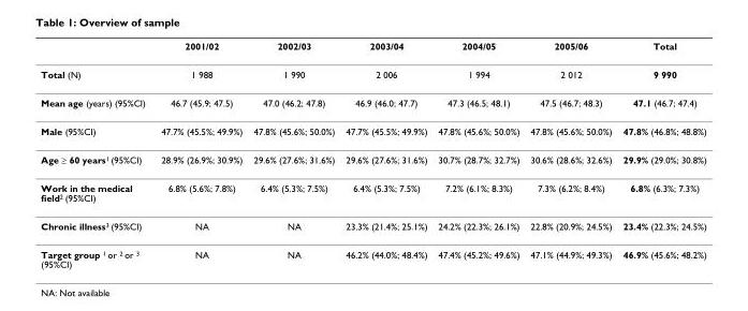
<table><thead><tr><td></td><td>2001/02</td><td>2002/03</td><td>2003/04</td><td>2004/05</td><td>2005/06</td><td>Total</td></tr></thead><tbody><tr><td>Total (N)</td><td>1 988</td><td>1 990</td><td>2 006</td><td>1 994</td><td>2 012</td><td>9 990</td></tr><tr><td>Mean age (years) (95%CI)</td><td>46.7 (45.9; 47.5)</td><td>47.0 (46.2; 47.8)</td><td>46.9 (46.0; 47.7)</td><td>47.3 (46.5; 48.1)</td><td>47.5 (46.7; 48.3)</td><td>47.1 (46.7; 47.4)</td></tr><tr><td>Male (95%CI)</td><td>47.7% (45.5%; 49.9%)</td><td>47.8% (45.6%; 50.0%)</td><td>47.7% (45.5%; 49.9%)</td><td>47.8% (45.6%; 50.0%)</td><td>47.8% (45.6%; 50.0%)</td><td>47.8% (46.8%; 48.8%)</td></tr><tr><td>Age ≥ 60 years<sup>1</sup> (95%CI)</td><td>28.9% (26.9%; 30.9%)</td><td>29.6% (27.6%; 31.6%)</td><td>29.6% (27.6%; 31.6%)</td><td>30.7% (28.7%; 32.7%)</td><td>30.6% (28.6%; 32.6%)</td><td>29.9% (29.0%; 30.8%)</td></tr><tr><td>Work in the medical field<sup>2</sup> (95%CI)</td><td>6.8% (5.6%; 7.8%)</td><td>6.4% (5.3%; 7.5%)</td><td>6.4% (5.3%; 7.5%)</td><td>7.2% (6.1%; 8.3%)</td><td>7.3% (6.2%; 8.4%)</td><td>6.8% (6.3%; 7.3%)</td></tr><tr><td>Chronic illness<sup>3</sup> (95%CI)</td><td>NA</td><td>NA</td><td>23.3% (21.4%; 25.1%)</td><td>24.2% (22.3%; 26.1%)</td><td>22.8% (20.9%; 24.5%)</td><td>23.4% (22.3%; 24.5%)</td></tr><tr><td>Target group <sup>1</sup> or <sup>2</sup> or <sup>3</sup> (95%CI)</td><td>NA</td><td>NA</td><td>46.2% (44.0%; 48.4%)</td><td>47.4% (45.2%; 49.6%)</td><td>47.1% (44.9%; 49.3%)</td><td>46.9% (45.6%; 48.2%)</td></tr></tbody></table>